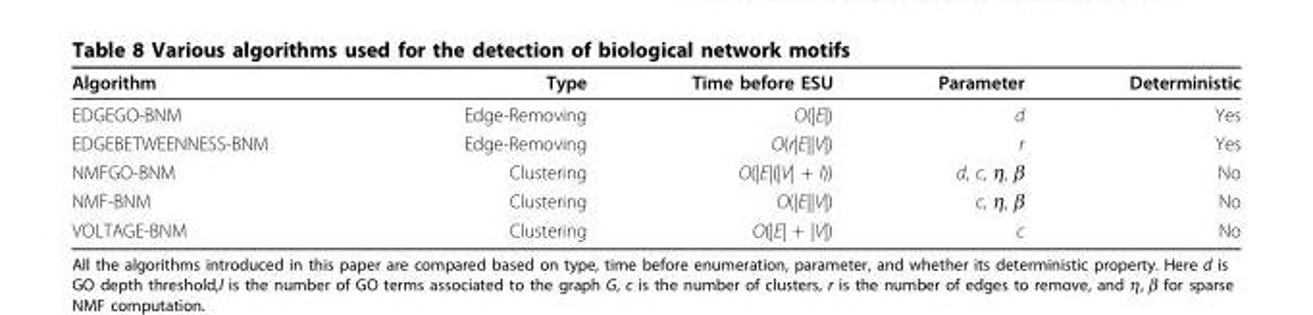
<table><thead><tr><td>Algorithm</td><td>Type</td><td>Time before ESU</td><td>Parameter</td><td>Deterministic</td></tr></thead><tbody><tr><td>EDGEGO-BNM</td><td>Edge-Removing</td><td>O(|E|)</td><td>d</td><td>Yes</td></tr><tr><td>EDGEBETWEENNESS-BNM</td><td>Edge-Removing</td><td>O(r|E||V|)</td><td>r</td><td>Yes</td></tr><tr><td>NMFGO-BNM</td><td>Clustering</td><td>O(|E|(|V| + l))</td><td>d, c, η, β</td><td>No</td></tr><tr><td>NMF-BNM</td><td>Clustering</td><td>O(|E||V|)</td><td>c, η, β</td><td>No</td></tr><tr><td>VOLTAGE-BNM</td><td>Clustering</td><td>O(|E| + |V|)</td><td>c</td><td>No</td></tr></tbody></table>